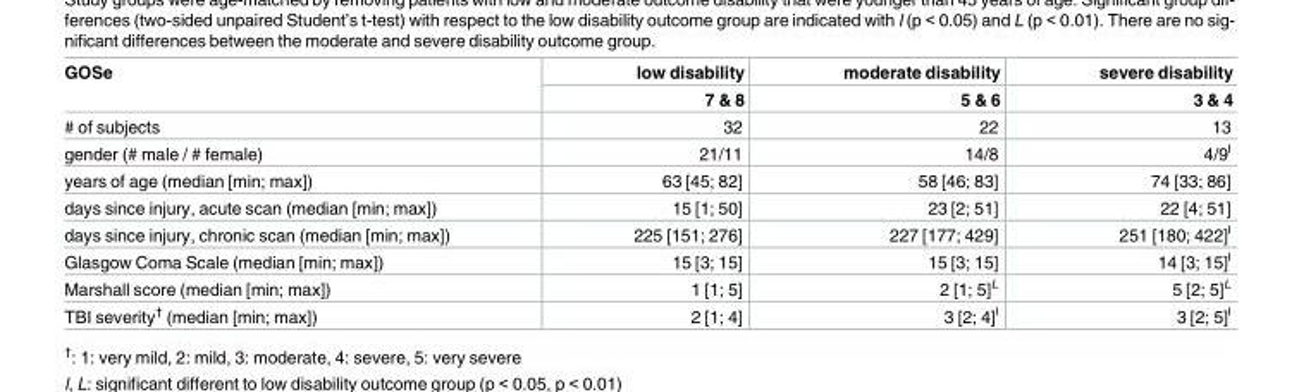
<table><thead><tr><td rowspan="2">GOSe</td><td rowspan="2">low disability 7 &amp; 8</td><td rowspan="2">moderate disability 5 &amp; 6</td><td rowspan="2">severe disability 3 &amp; 4</td></tr><tr></tr></thead><tbody><tr><td># of subjects</td><td>32</td><td>22</td><td>13</td></tr><tr><td>gender (# male / # female)</td><td>21/11</td><td>14/8</td><td>4/9<sup>l</sup></td></tr><tr><td>years of age (median [min; max])</td><td>63 [45; 82]</td><td>58 [46; 83]</td><td>74 [33; 86]</td></tr><tr><td>days since injury, acute scan (median [min; max])</td><td>15 [1; 50]</td><td>23 [2; 51]</td><td>22 [4; 51]</td></tr><tr><td>days since injury, chronic scan (median [min; max])</td><td>225 [151; 276]</td><td>227 [177; 429]</td><td>251 [180; 422]<sup>l</sup></td></tr><tr><td>Glasgow Coma Scale (median [min; max])</td><td>15 [3; 15]</td><td>15 [3; 15]</td><td>14 [3; 15]<sup>l</sup></td></tr><tr><td>Marshall score (median [min; max])</td><td>1 [1; 5]</td><td>2 [1; 5]<sup>L</sup></td><td>5 [2; 5]<sup>L</sup></td></tr><tr><td>TBI severity<sup>†</sup> (median [min; max])</td><td>2 [1; 4]</td><td>3 [2; 4]<sup>l</sup></td><td>3 [2; 5]<sup>l</sup></td></tr></tbody></table>